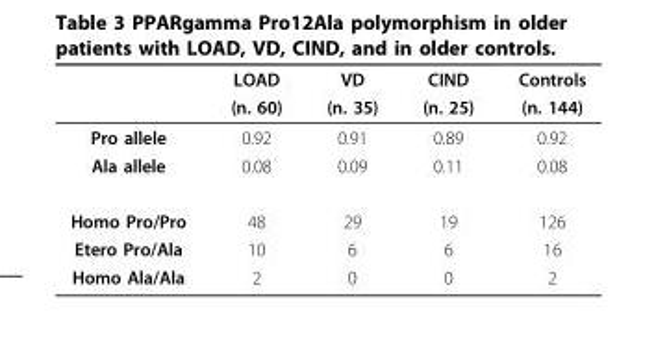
<table><thead><tr><td rowspan="2"></td><td rowspan="2">LOAD (n. 60)</td><td rowspan="2">VD (n. 35)</td><td rowspan="2">CIND (n. 25)</td><td rowspan="2">Controls (n. 144)</td></tr><tr></tr></thead><tbody><tr><td>Pro allele</td><td>0.92</td><td>0.91</td><td>0.89</td><td>0.92</td></tr><tr><td>Ala allele</td><td>0.08</td><td>0.09</td><td>0.11</td><td>0.08</td></tr><tr><td>Homo Pro/Pro</td><td>48</td><td>29</td><td>19</td><td>126</td></tr><tr><td>Etero Pro/Ala</td><td>10</td><td>6</td><td>6</td><td>16</td></tr><tr><td>Homo Ala/Ala</td><td>2</td><td>0</td><td>0</td><td>2</td></tr></tbody></table>